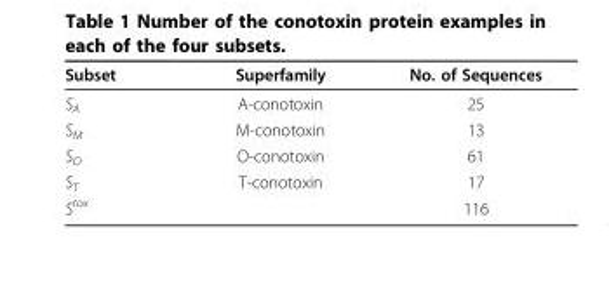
<table><thead><tr><td>Subset</td><td>Superfamily</td><td>No. of Sequences</td></tr></thead><tbody><tr><td>S<sub>A</sub></td><td>A-conotoxin</td><td>25</td></tr><tr><td>S<sub>M</sub></td><td>M-conotoxin</td><td>13</td></tr><tr><td>S<sub>O</sub></td><td>O-conotoxin</td><td>61</td></tr><tr><td>S<sub>T</sub></td><td>T-conotoxin</td><td>17</td></tr><tr><td>S<sup>tox</sup></td><td></td><td>116</td></tr></tbody></table>